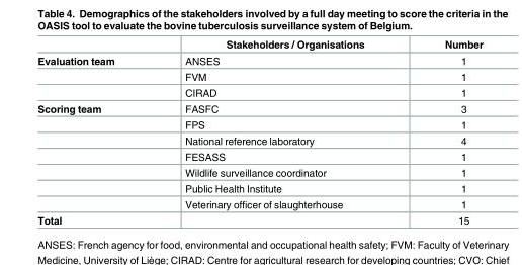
<table><thead><tr><td></td><td>Stakeholders / Organisations</td><td>Number</td></tr></thead><tbody><tr><td rowspan="3">Evaluation team</td><td>ANSES</td><td>1</td></tr><tr><td>FVM</td><td>1</td></tr><tr><td>CIRAD</td><td>1</td></tr><tr><td rowspan="7">Scoring team</td><td>FASFC</td><td>3</td></tr><tr><td>FPS</td><td>1</td></tr><tr><td>National reference laboratory</td><td>4</td></tr><tr><td>FESASS</td><td>1</td></tr><tr><td>Wildlife surveillance coordinator</td><td>1</td></tr><tr><td>Public Health Institute</td><td>1</td></tr><tr><td>Veterinary officer of slaughterhouse</td><td>1</td></tr><tr><td>Total</td><td></td><td>15</td></tr></tbody></table>